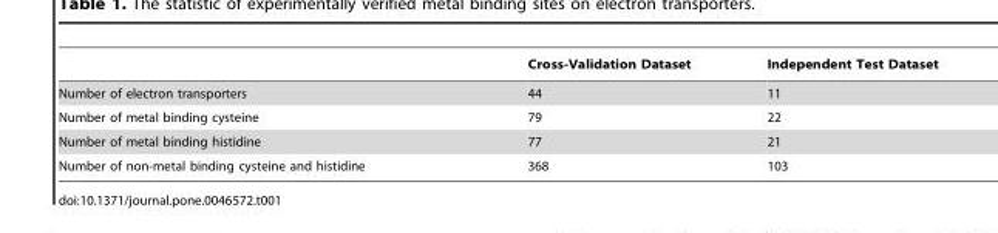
<table><thead><tr><td></td><td>Cross-Validation Dataset</td><td>Independent Test Dataset</td></tr></thead><tbody><tr><td>Number of electron transporters</td><td>44</td><td>11</td></tr><tr><td>Number of metal binding cysteine</td><td>79</td><td>22</td></tr><tr><td>Number of metal binding histidine</td><td>77</td><td>21</td></tr><tr><td>Number of non-metal binding cysteine and histidine</td><td>368</td><td>103</td></tr></tbody></table>